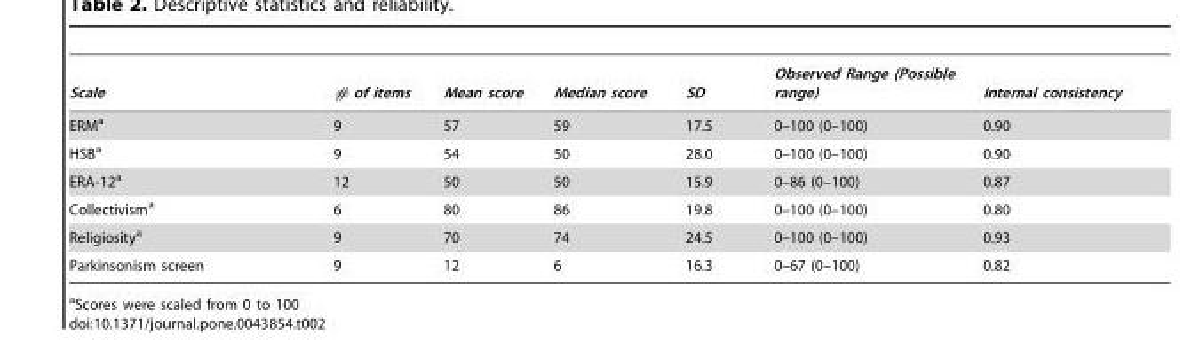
<table><thead><tr><td>Scale</td><td># of items</td><td>Mean score</td><td>Median score</td><td>SD</td><td>Observed Range (Possible range)</td><td>Internal consistency</td></tr></thead><tbody><tr><td>ERM<sup>a</sup></td><td>9</td><td>57</td><td>59</td><td>17.5</td><td>0–100 (0–100)</td><td>0.90</td></tr><tr><td>HSB<sup>a</sup></td><td>9</td><td>54</td><td>50</td><td>28.0</td><td>0–100 (0–100)</td><td>0.90</td></tr><tr><td>ERA-12<sup>a</sup></td><td>12</td><td>50</td><td>50</td><td>15.9</td><td>0–86 (0–100)</td><td>0.87</td></tr><tr><td>Collectivism<sup>a</sup></td><td>6</td><td>80</td><td>86</td><td>19.8</td><td>0–100 (0–100)</td><td>0.80</td></tr><tr><td>Religiosity<sup>a</sup></td><td>9</td><td>70</td><td>74</td><td>24.5</td><td>0–100 (0–100)</td><td>0.93</td></tr><tr><td>Parkinsonism screen</td><td>9</td><td>12</td><td>6</td><td>16.3</td><td>0–67 (0–100)</td><td>0.82</td></tr></tbody></table>